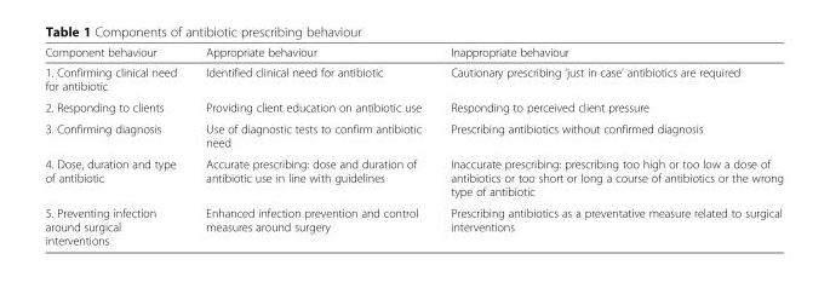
<table><thead><tr><td>Component behaviour</td><td>Appropriate behaviour</td><td>Inappropriate behaviour</td></tr></thead><tbody><tr><td>1. Confirming clinical need for antibiotic</td><td>Identified clinical need for antibiotic</td><td>Cautionary prescribing ‘just in case’ antibiotics are required</td></tr><tr><td>2. Responding to clients</td><td>Providing client education on antibiotic use</td><td>Responding to perceived client pressure</td></tr><tr><td>3. Confirming diagnosis</td><td>Use of diagnostic tests to confirm antibiotic need</td><td>Prescribing antibiotics without confirmed diagnosis</td></tr><tr><td>4. Dose, duration and type of antibiotic</td><td>Accurate prescribing: dose and duration of antibiotic use in line with guidelines</td><td>Inaccurate prescribing: prescribing too high or too low a dose of antibiotics or too short or long a course of antibiotics or the wrong type of antibiotic</td></tr><tr><td>5. Preventing infection around surgical interventions</td><td>Enhanced infection prevention and control measures around surgery</td><td>Prescribing antibiotics as a preventative measure related to surgical interventions</td></tr></tbody></table>